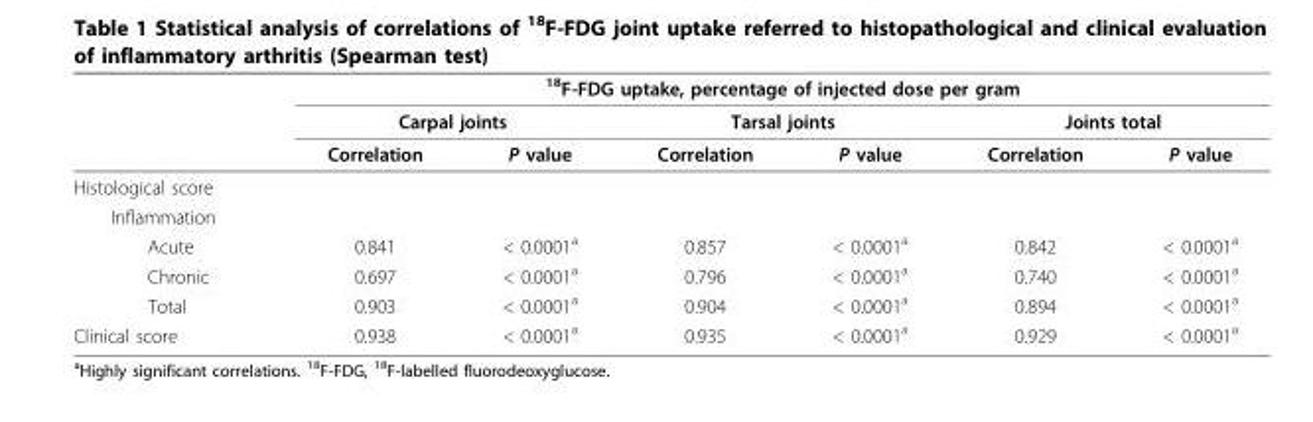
<table><thead><tr><td rowspan="3"></td><td colspan="6"><sup>18</sup>F-FDG uptake, percentage of injected dose per gram</td></tr><tr><td colspan="2">Carpal joints</td><td colspan="2">Tarsal joints</td><td colspan="2">Joints total</td></tr><tr><td>Correlation</td><td>P value</td><td>Correlation</td><td>P value</td><td>Correlation</td><td>P value</td></tr></thead><tbody><tr><td colspan="7">Histological score</td></tr><tr><td colspan="7">Inflammation</td></tr><tr><td>Acute</td><td>0.841</td><td>&lt; 0.0001<sup>a</sup></td><td>0.857</td><td>&lt; 0.0001<sup>a</sup></td><td>0.842</td><td>&lt; 0.0001<sup>a</sup></td></tr><tr><td>Chronic</td><td>0.697</td><td>&lt; 0.0001<sup>a</sup></td><td>0.796</td><td>&lt; 0.0001<sup>a</sup></td><td>0.740</td><td>&lt; 0.0001<sup>a</sup></td></tr><tr><td>Total</td><td>0.903</td><td>&lt; 0.0001<sup>a</sup></td><td>0.904</td><td>&lt; 0.0001<sup>a</sup></td><td>0.894</td><td>&lt; 0.0001<sup>a</sup></td></tr><tr><td>Clinical score</td><td>0.938</td><td>&lt; 0.0001<sup>a</sup></td><td>0.935</td><td>&lt; 0.0001<sup>a</sup></td><td>0.929</td><td>&lt; 0.0001<sup>a</sup></td></tr></tbody></table>